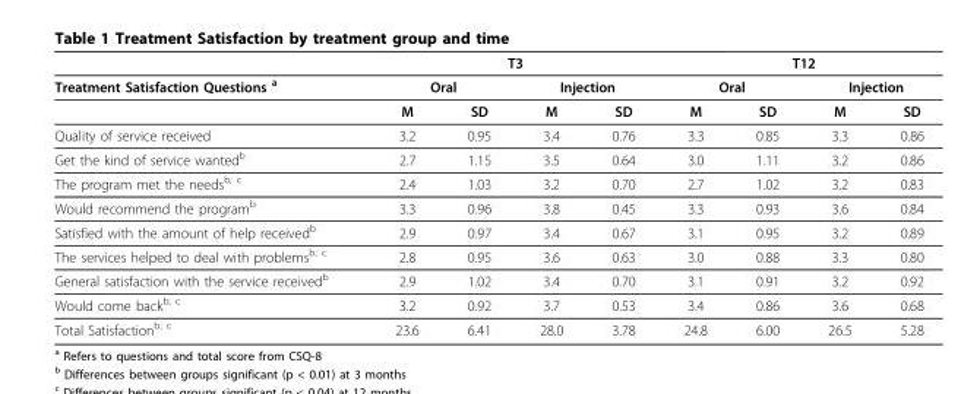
<table><thead><tr><td rowspan="3">Treatment Satisfaction Questions <sup>a</sup></td><td colspan="4">T3</td><td colspan="4">T12</td></tr><tr><td colspan="2">Oral</td><td colspan="2">Injection</td><td colspan="2">Oral</td><td colspan="2">Injection</td></tr><tr><td>M</td><td>SD</td><td>M</td><td>SD</td><td>M</td><td>SD</td><td>M</td><td>SD</td></tr></thead><tbody><tr><td>Quality of service received</td><td>3.2</td><td>0.95</td><td>3.4</td><td>0.76</td><td>3.3</td><td>0.85</td><td>3.3</td><td>0.86</td></tr><tr><td>Get the kind of service wanted<sup>b</sup></td><td>2.7</td><td>1.15</td><td>3.5</td><td>0.64</td><td>3.0</td><td>1.11</td><td>3.2</td><td>0.86</td></tr><tr><td>The program met the needs<sup>b; c</sup></td><td>2.4</td><td>1.03</td><td>3.2</td><td>0.70</td><td>2.7</td><td>1.02</td><td>3.2</td><td>0.83</td></tr><tr><td>Would recommend the program<sup>b</sup></td><td>3.3</td><td>0.96</td><td>3.8</td><td>0.45</td><td>3.3</td><td>0.93</td><td>3.6</td><td>0.84</td></tr><tr><td>Satisfied with the amount of help received<sup>b</sup></td><td>2.9</td><td>0.97</td><td>3.4</td><td>0.67</td><td>3.1</td><td>0.95</td><td>3.2</td><td>0.89</td></tr><tr><td>The services helped to deal with problems<sup>b; c</sup></td><td>2.8</td><td>0.95</td><td>3.6</td><td>0.63</td><td>3.0</td><td>0.88</td><td>3.3</td><td>0.80</td></tr><tr><td>General satisfaction with the service received<sup>b</sup></td><td>2.9</td><td>1.02</td><td>3.4</td><td>0.70</td><td>3.1</td><td>0.91</td><td>3.2</td><td>0.92</td></tr><tr><td>Would come back<sup>b; c</sup></td><td>3.2</td><td>0.92</td><td>3.7</td><td>0.53</td><td>3.4</td><td>0.86</td><td>3.6</td><td>0.68</td></tr><tr><td>Total Satisfaction<sup>b; c</sup></td><td>23.6</td><td>6.41</td><td>28.0</td><td>3.78</td><td>24.8</td><td>6.00</td><td>26.5</td><td>5.28</td></tr></tbody></table>